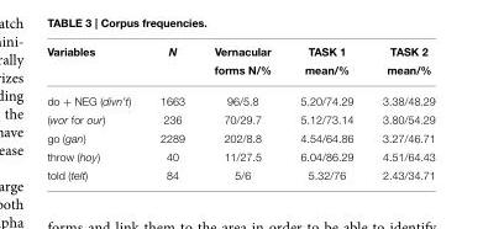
<table><thead><tr><td>Variables</td><td>N</td><td>Vernacular forms N/%</td><td>TASK 1 mean/%</td><td>TASK 2 mean/%</td></tr></thead><tbody><tr><td>do + NEG (divn’t)</td><td>1663</td><td>96/5.8</td><td>5.20/74.29</td><td>3.38/48.29</td></tr><tr><td>(wor for our)</td><td>236</td><td>70/29.7</td><td>5.12/73.14</td><td>3.80/54.29</td></tr><tr><td>go (gan)</td><td>2289</td><td>202/8.8</td><td>4.54/64.86</td><td>3.27/46.71</td></tr><tr><td>throw (hoy)</td><td>40</td><td>11/27.5</td><td>6.04/86.29</td><td>4.51/64.43</td></tr><tr><td>told (telt)</td><td>84</td><td>5/6</td><td>5.32/76</td><td>2.43/34.71</td></tr></tbody></table>